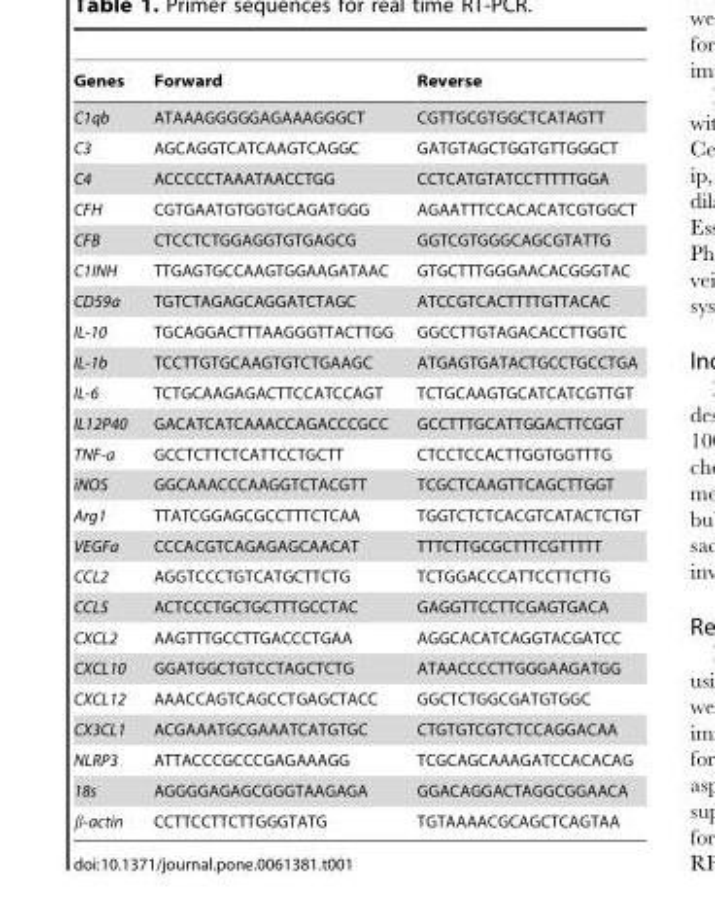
<table><thead><tr><td>Genes</td><td>Forward</td><td>Reverse</td></tr></thead><tbody><tr><td>C1qb</td><td>ATAAAGGGGGAGAAAGGGCT</td><td>CGTTGCGTGGCTCATAGTT</td></tr><tr><td>C3</td><td>AGCAGGTCATCAAGTCAGGC</td><td>GATGTAGCTGGTGTTGGGCT</td></tr><tr><td>C4</td><td>ACCCCCTAAATAACCTGG</td><td>CCTCATGTATCCTTTTTGGA</td></tr><tr><td>CFH</td><td>CGTGAATGTGGTGCAGATGGG</td><td>AGAATTTCCACACATCGTGGCT</td></tr><tr><td>CFB</td><td>CTCCTCTGGAGGTGTGAGCG</td><td>GGTCGTGGGCAGCGTATTG</td></tr><tr><td>C1INH</td><td>TTGAGTGCCAAGTGGAAGATAAC</td><td>GTGCTTTGGGAACACGGGTAC</td></tr><tr><td>CD59a</td><td>TGTCTAGAGCAGGATCTAGC</td><td>ATCCGTCACTTTTGTTACAC</td></tr><tr><td>IL-10</td><td>TGCAGGACTTTAAGGGTTACTTGG</td><td>GGCCTTGTAGACACCTTGGTC</td></tr><tr><td>IL-1b</td><td>TCCTTGTGCAAGTGTCTGAAGC</td><td>ATGAGTGATACTGCCTGCCTGA</td></tr><tr><td>IL-6</td><td>TCTGCAAGAGACTTCCATCCAGT</td><td>TCTGCAAGTGCATCATCGTTGT</td></tr><tr><td>IL12P40</td><td>GACATCATCAAACCAGACCCGCC</td><td>GCCTTTGCATTGGACTTCGGT</td></tr><tr><td>TNF-a</td><td>GCCTCTTCTCATTCCTGCTT</td><td>CTCCTCCACTTGGTGGTTTG</td></tr><tr><td>iNOS</td><td>GGCAAACCCAAGGTCTACGTT</td><td>TCGCTCAAGTTCAGCTTGGT</td></tr><tr><td>Arg1</td><td>TTATCGGAGCGCCTTTCTCAA</td><td>TGGTCTCTCACGTCATACTCTGT</td></tr><tr><td>VEGFa</td><td>CCCACGTCAGAGAGCAACAT</td><td>TTTCTTGCGCTTTCGTTTTT</td></tr><tr><td>CCL2</td><td>AGGTCCCTGTCATGCTTCTG</td><td>TCTGGACCCATTCCTTCTTG</td></tr><tr><td>CCL5</td><td>ACTCCCTGCTGCTTTGCCTAC</td><td>GAGGTTCCTTCGAGTGACA</td></tr><tr><td>CXCL2</td><td>AAGTTTGCCTTGACCCTGAA</td><td>AGGCACATCAGGTACGATCC</td></tr><tr><td>CXCL10</td><td>GGATGGCTGTCCTAGCTCTG</td><td>ATAACCCCTTGGGAAGATGG</td></tr><tr><td>CXCL12</td><td>AAACCAGTCAGCCTGAGCTACC</td><td>GGCTCTGGCGATGTGGC</td></tr><tr><td>CX3CL1</td><td>ACGAAATGCGAAATCATGTGC</td><td>CTGTGTCGTCTCCAGGACAA</td></tr><tr><td>NLRP3</td><td>ATTACCCGCCCGAGAAAGG</td><td>TCGCAGCAAAGATCCACACAG</td></tr><tr><td>18s</td><td>AGGGGAGAGCGGGTAAGAGA</td><td>GGACAGGACTAGGCGGAACA</td></tr><tr><td>β-actin</td><td>CCTTCCTTCTTGGGTATG</td><td>TGTAAAACGCAGCTCAGTAA</td></tr></tbody></table>